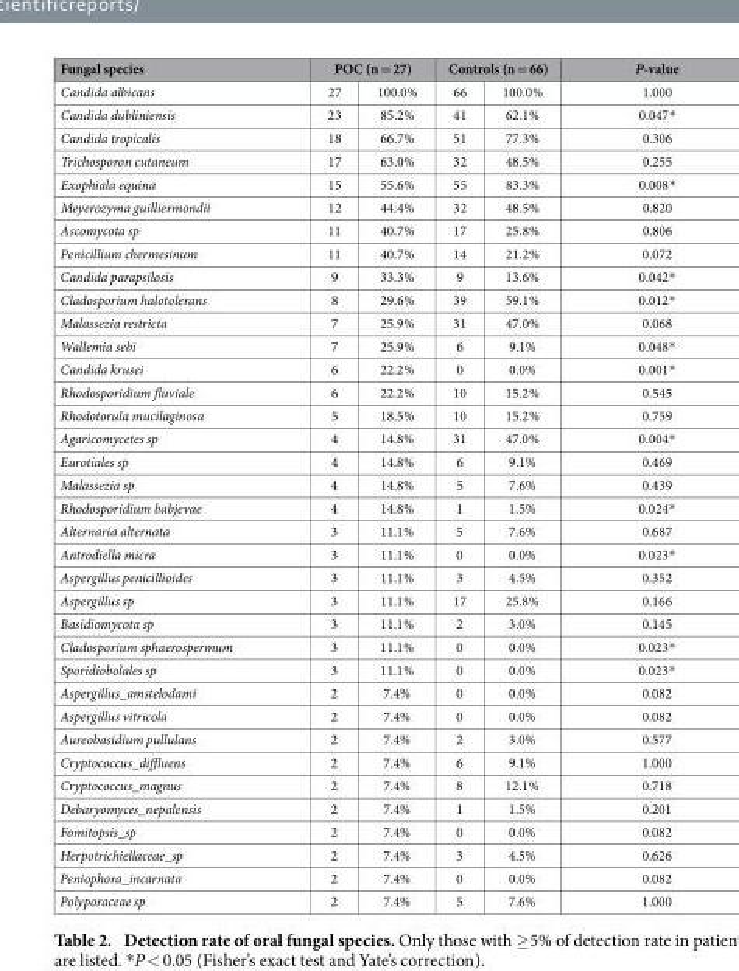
<table><thead><tr><td rowspan="2">Fungal species Candida albicans</td><td colspan="2">POC (n = 27)</td><td colspan="2">Controls (n = 66)</td><td rowspan="2">P-value 1.000</td></tr><tr><td>27</td><td>100.0%</td><td>66</td><td>100.0%</td></tr></thead><tbody><tr><td>Candida dubliniensis</td><td>23</td><td>85.2%</td><td>41</td><td>62.1%</td><td>0.047*</td></tr><tr><td>Candida tropicalis</td><td>18</td><td>66.7%</td><td>51</td><td>77.3%</td><td>0.306</td></tr><tr><td>Trichosporon cutaneum</td><td>17</td><td>63.0%</td><td>32</td><td>48.5%</td><td>0.255</td></tr><tr><td>Exophiala equina</td><td>15</td><td>55.6%</td><td>55</td><td>83.3%</td><td>0.008*</td></tr><tr><td>Meyerozyma guilliermondii</td><td>12</td><td>44.4%</td><td>32</td><td>48.5%</td><td>0.820</td></tr><tr><td>Ascomycota sp</td><td>11</td><td>40.7%</td><td>17</td><td>25.8%</td><td>0.806</td></tr><tr><td>Penicillium chermesinum</td><td>11</td><td>40.7%</td><td>14</td><td>21.2%</td><td>0.072</td></tr><tr><td>Candida parapsilosis</td><td>9</td><td>33.3%</td><td>9</td><td>13.6%</td><td>0.042*</td></tr><tr><td>Cladosporium halotolerans</td><td>8</td><td>29.6%</td><td>39</td><td>59.1%</td><td>0.012*</td></tr><tr><td>Malassezia restricta</td><td>7</td><td>25.9%</td><td>31</td><td>47.0%</td><td>0.068</td></tr><tr><td>Wallemia sebi</td><td>7</td><td>25.9%</td><td>6</td><td>9.1%</td><td>0.048*</td></tr><tr><td>Candida krusei</td><td>6</td><td>22.2%</td><td>0</td><td>0.0%</td><td>0.001*</td></tr><tr><td>Rhodosporidium fluviale</td><td>6</td><td>22.2%</td><td>10</td><td>15.2%</td><td>0.545</td></tr><tr><td>Rhodotorula mucilaginosa</td><td>5</td><td>18.5%</td><td>10</td><td>15.2%</td><td>0.759</td></tr><tr><td>Agaricomycetes sp</td><td>4</td><td>14.8%</td><td>31</td><td>47.0%</td><td>0.004*</td></tr><tr><td>Eurotiales sp</td><td>4</td><td>14.8%</td><td>6</td><td>9.1%</td><td>0.469</td></tr><tr><td>Malassezia sp</td><td>4</td><td>14.8%</td><td>5</td><td>7.6%</td><td>0.439</td></tr><tr><td>Rhodosporidium babjevae</td><td>4</td><td>14.8%</td><td>1</td><td>1.5%</td><td>0.024*</td></tr><tr><td>Alternaria alternata</td><td>3</td><td>11.1%</td><td>5</td><td>7.6%</td><td>0.687</td></tr><tr><td>Antrodiella micra</td><td>3</td><td>11.1%</td><td>0</td><td>0.0%</td><td>0.023*</td></tr><tr><td>Aspergillus penicillioides</td><td>3</td><td>11.1%</td><td>3</td><td>4.5%</td><td>0.352</td></tr><tr><td>Aspergillus sp</td><td>3</td><td>11.1%</td><td>17</td><td>25.8%</td><td>0.166</td></tr><tr><td>Basidiomycota sp</td><td>3</td><td>11.1%</td><td>2</td><td>3.0%</td><td>0.145</td></tr><tr><td>Cladosporium sphaerospermum</td><td>3</td><td>11.1%</td><td>0</td><td>0.0%</td><td>0.023*</td></tr><tr><td>Sporidiobolales sp</td><td>3</td><td>11.1%</td><td>0</td><td>0.0%</td><td>0.023*</td></tr><tr><td>Aspergillus_amstelodami</td><td>2</td><td>7.4%</td><td>0</td><td>0.0%</td><td>0.082</td></tr><tr><td>Aspergillus vitricola</td><td>2</td><td>7.4%</td><td>0</td><td>0.0%</td><td>0.082</td></tr><tr><td>Aureobasidium pullulans</td><td>2</td><td>7.4%</td><td>2</td><td>3.0%</td><td>0.577</td></tr><tr><td>Cryptococcus_diffluens</td><td>2</td><td>7.4%</td><td>6</td><td>9.1%</td><td>1.000</td></tr><tr><td>Cryptococcus_magnus</td><td>2</td><td>7.4%</td><td>8</td><td>12.1%</td><td>0.718</td></tr><tr><td>Debaryomyces_nepalensis</td><td>2</td><td>7.4%</td><td>1</td><td>1.5%</td><td>0.201</td></tr><tr><td>Fomitopsis_sp</td><td>2</td><td>7.4%</td><td>0</td><td>0.0%</td><td>0.082</td></tr><tr><td>Herpotrichiellaceae_sp</td><td>2</td><td>7.4%</td><td>3</td><td>4.5%</td><td>0.626</td></tr><tr><td>Peniophora_incarnata</td><td>2</td><td>7.4%</td><td>0</td><td>0.0%</td><td>0.082</td></tr><tr><td>Polyporaceae sp</td><td>2</td><td>7.4%</td><td>5</td><td>7.6%</td><td>1.000</td></tr></tbody></table>